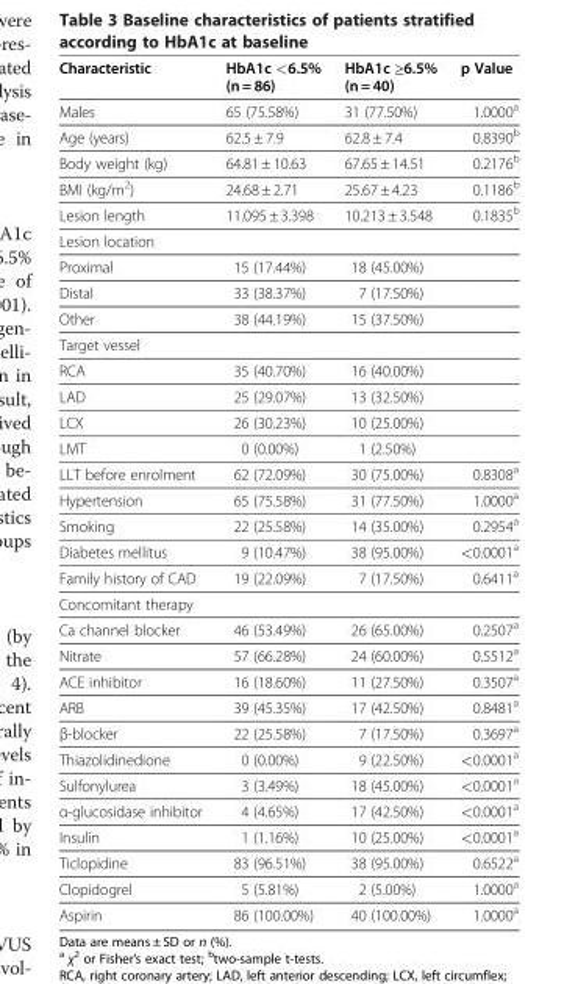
<table><thead><tr><td>Characteristic</td><td>HbA1c &lt;6.5% (n = 86)</td><td>HbA1c ≥6.5% (n = 40)</td><td>p Value</td></tr></thead><tbody><tr><td>Males</td><td>65 (75.58%)</td><td>31 (77.50%)</td><td>1.0000<sup>a</sup></td></tr><tr><td>Age (years)</td><td>62.5 ± 7.9</td><td>62.8 ± 7.4</td><td>0.8390<sup>b</sup></td></tr><tr><td>Body weight (kg)</td><td>64.81 ± 10.63</td><td>67.65 ± 14.51</td><td>0.2176<sup>b</sup></td></tr><tr><td>BMI (kg/m<sup>2</sup>)</td><td>24.68 ± 2.71</td><td>25.67 ± 4.23</td><td>0.1186<sup>b</sup></td></tr><tr><td>Lesion length</td><td>11.095 ± 3.398</td><td>10.213 ± 3.548</td><td>0.1835<sup>b</sup></td></tr><tr><td colspan="4">Lesion location</td></tr><tr><td>Proximal</td><td>15 (17.44%)</td><td>18 (45.00%)</td><td></td></tr><tr><td>Distal</td><td>33 (38.37%)</td><td>7 (17.50%)</td><td></td></tr><tr><td>Other</td><td>38 (44.19%)</td><td>15 (37.50%)</td><td></td></tr><tr><td colspan="4">Target vessel</td></tr><tr><td>RCA</td><td>35 (40.70%)</td><td>16 (40.00%)</td><td></td></tr><tr><td>LAD</td><td>25 (29.07%)</td><td>13 (32.50%)</td><td></td></tr><tr><td>LCX</td><td>26 (30.23%)</td><td>10 (25.00%)</td><td></td></tr><tr><td>LMT</td><td>0 (0.00%)</td><td>1 (2.50%)</td><td></td></tr><tr><td>LLT before enrolment</td><td>62 (72.09%)</td><td>30 (75.00%)</td><td>0.8308<sup>a</sup></td></tr><tr><td>Hypertension</td><td>65 (75.58%)</td><td>31 (77.50%)</td><td>1.0000<sup>a</sup></td></tr><tr><td>Smoking</td><td>22 (25.58%)</td><td>14 (35.00%)</td><td>0.2954<sup>a</sup></td></tr><tr><td>Diabetes mellitus</td><td>9 (10.47%)</td><td>38 (95.00%)</td><td>&lt;0.0001<sup>a</sup></td></tr><tr><td>Family history of CAD</td><td>19 (22.09%)</td><td>7 (17.50%)</td><td>0.6411<sup>a</sup></td></tr><tr><td colspan="4">Concomitant therapy</td></tr><tr><td>Ca channel blocker</td><td>46 (53.49%)</td><td>26 (65.00%)</td><td>0.2507<sup>a</sup></td></tr><tr><td>Nitrate</td><td>57 (66.28%)</td><td>24 (60.00%)</td><td>0.5512<sup>a</sup></td></tr><tr><td>ACE inhibitor</td><td>16 (18.60%)</td><td>11 (27.50%)</td><td>0.3507<sup>a</sup></td></tr><tr><td>ARB</td><td>39 (45.35%)</td><td>17 (42.50%)</td><td>0.8481<sup>a</sup></td></tr><tr><td>β-blocker</td><td>22 (25.58%)</td><td>7 (17.50%)</td><td>0.3697<sup>a</sup></td></tr><tr><td>Thiazolidinedione</td><td>0 (0.00%)</td><td>9 (22.50%)</td><td>&lt;0.0001<sup>a</sup></td></tr><tr><td>Sulfonylurea</td><td>3 (3.49%)</td><td>18 (45.00%)</td><td>&lt;0.0001<sup>a</sup></td></tr><tr><td>α-glucosidase inhibitor</td><td>4 (4.65%)</td><td>17 (42.50%)</td><td>&lt;0.0001<sup>a</sup></td></tr><tr><td>Insulin</td><td>1 (1.16%)</td><td>10 (25.00%)</td><td>&lt;0.0001<sup>a</sup></td></tr><tr><td>Ticlopidine</td><td>83 (96.51%)</td><td>38 (95.00%)</td><td>0.6522<sup>a</sup></td></tr><tr><td>Clopidogrel</td><td>5 (5.81%)</td><td>2 (5.00%)</td><td>1.0000<sup>a</sup></td></tr><tr><td>Aspirin</td><td>86 (100.00%)</td><td>40 (100.00%)</td><td>1.0000<sup>a</sup></td></tr></tbody></table>